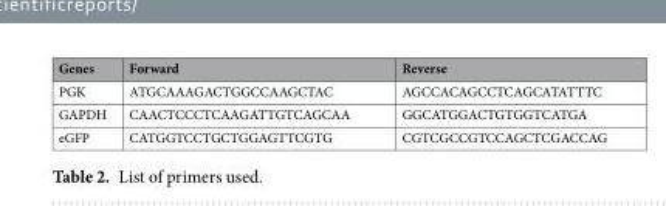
<table><thead><tr><td>Genes</td><td>Forward</td><td>Reverse</td></tr></thead><tbody><tr><td>PGK</td><td>ATGCAAAGACTGGCCAAGCTAC</td><td>AGCCACAGCCTCAGCATATTTC</td></tr><tr><td>GAPDH</td><td>CAACTCCCTCAAGATTGTCAGCAA</td><td>GGCATGGACTGTGGTCATGA</td></tr><tr><td>eGFP</td><td>CATGGTCCTGCTGGAGTTCGTG</td><td>CGTCGCCGTCCAGCTCGACCAG</td></tr></tbody></table>